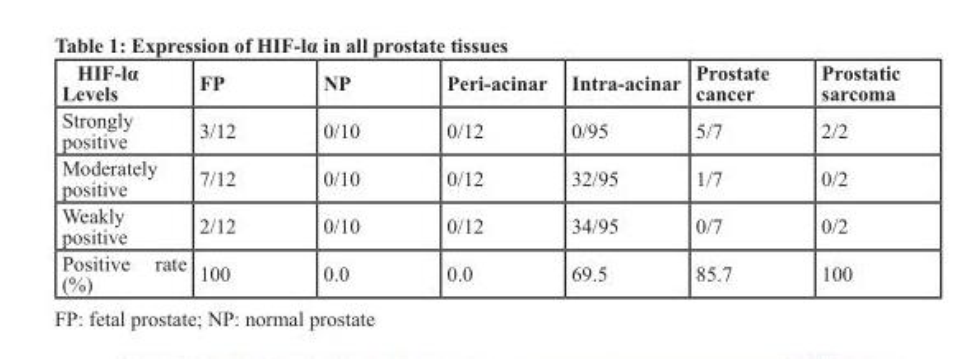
<table><thead><tr><td>HIF-lα Levels</td><td>FP</td><td>NP</td><td>Peri-acinar</td><td>Intra-acinar</td><td>Prostate cancer</td><td>Prostatic sarcoma</td></tr></thead><tbody><tr><td>Strongly positive</td><td>3/12</td><td>0/10</td><td>0/12</td><td>0/95</td><td>5/7</td><td>2/2</td></tr><tr><td>Moderately positive</td><td>7/12</td><td>0/10</td><td>0/12</td><td>32/95</td><td>1/7</td><td>0/2</td></tr><tr><td>Weakly positive</td><td>2/12</td><td>0/10</td><td>0/12</td><td>34/95</td><td>0/7</td><td>0/2</td></tr><tr><td>Positive rate (%)</td><td>100</td><td>0.0</td><td>0.0</td><td>69.5</td><td>85.7</td><td>100</td></tr></tbody></table>